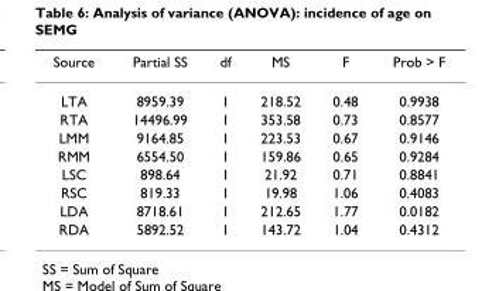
<table><thead><tr><td>Source</td><td>Partial SS</td><td>df</td><td>MS</td><td>F</td><td>Prob &gt; F</td></tr></thead><tbody><tr><td>LTA</td><td>8959.39</td><td>1</td><td>218.52</td><td>0.48</td><td>0.9938</td></tr><tr><td>RTA</td><td>14496.99</td><td>1</td><td>353.58</td><td>0.73</td><td>0.8577</td></tr><tr><td>LMM</td><td>9164.85</td><td>1</td><td>223.53</td><td>0.67</td><td>0.9146</td></tr><tr><td>RMM</td><td>6554.50</td><td>1</td><td>159.86</td><td>0.65</td><td>0.9284</td></tr><tr><td>LSC</td><td>898.64</td><td>1</td><td>21.92</td><td>0.71</td><td>0.8841</td></tr><tr><td>RSC</td><td>819.33</td><td>1</td><td>19.98</td><td>1.06</td><td>0.4083</td></tr><tr><td>LDA</td><td>8718.61</td><td>1</td><td>212.65</td><td>1.77</td><td>0.0182</td></tr><tr><td>RDA</td><td>5892.52</td><td>1</td><td>143.72</td><td>1.04</td><td>0.4312</td></tr></tbody></table>